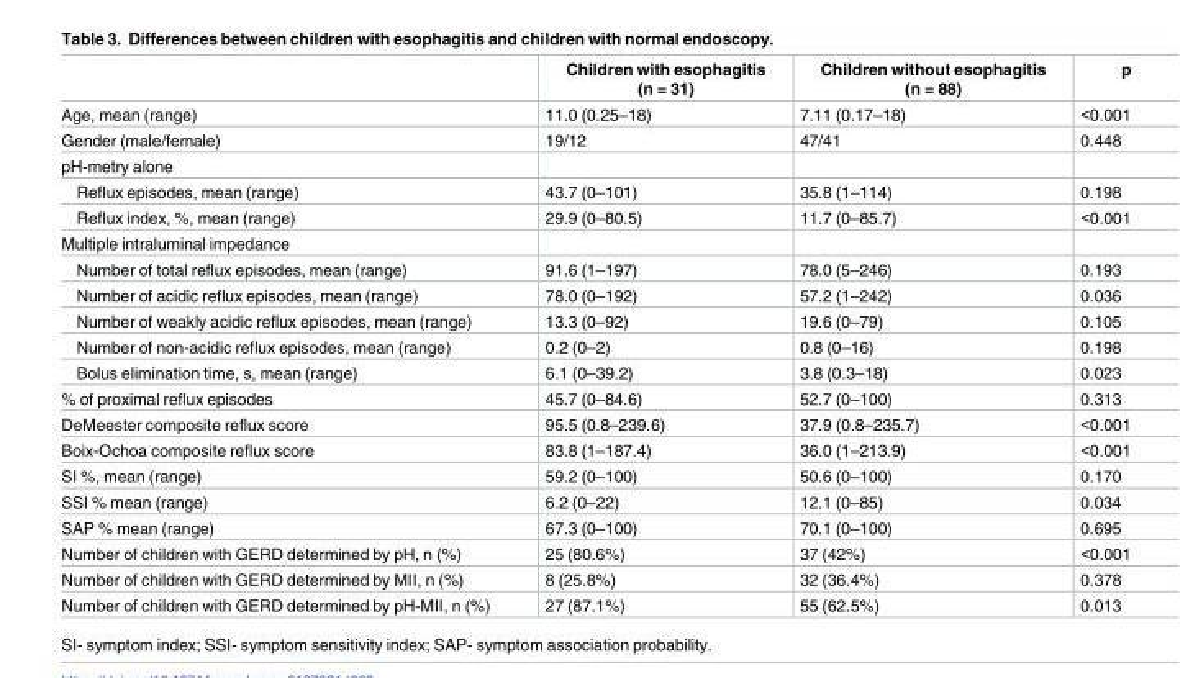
<table><thead><tr><td></td><td>Children with esophagitis (n = 31)</td><td>Children without esophagitis (n = 88)</td><td>p</td></tr></thead><tbody><tr><td>Age, mean (range)</td><td>11.0 (0.25–18)</td><td>7.11 (0.17–18)</td><td>&lt;0.001</td></tr><tr><td>Gender (male/female)</td><td>19/12</td><td>47/41</td><td>0.448</td></tr><tr><td colspan="4">pH-metry alone</td></tr><tr><td>Reflux episodes, mean (range)</td><td>43.7 (0–101)</td><td>35.8 (1–114)</td><td>0.198</td></tr><tr><td>Reflux index, %, mean (range)</td><td>29.9 (0–80.5)</td><td>11.7 (0–85.7)</td><td>&lt;0.001</td></tr><tr><td colspan="4">Multiple intraluminal impedance</td></tr><tr><td>Number of total reflux episodes, mean (range)</td><td>91.6 (1–197)</td><td>78.0 (5–246)</td><td>0.193</td></tr><tr><td>Number of acidic reflux episodes, mean (range)</td><td>78.0 (0–192)</td><td>57.2 (1–242)</td><td>0.036</td></tr><tr><td>Number of weakly acidic reflux episodes, mean (range)</td><td>13.3 (0–92)</td><td>19.6 (0–79)</td><td>0.105</td></tr><tr><td>Number of non-acidic reflux episodes, mean (range)</td><td>0.2 (0–2)</td><td>0.8 (0–16)</td><td>0.198</td></tr><tr><td>Bolus elimination time, s, mean (range)</td><td>6.1 (0–39.2)</td><td>3.8 (0.3–18)</td><td>0.023</td></tr><tr><td>% of proximal reflux episodes</td><td>45.7 (0–84.6)</td><td>52.7 (0–100)</td><td>0.313</td></tr><tr><td>DeMeester composite reflux score</td><td>95.5 (0.8–239.6)</td><td>37.9 (0.8–235.7)</td><td>&lt;0.001</td></tr><tr><td>Boix-Ochoa composite reflux score</td><td>83.8 (1–187.4)</td><td>36.0 (1–213.9)</td><td>&lt;0.001</td></tr><tr><td>SI %, mean (range)</td><td>59.2 (0–100)</td><td>50.6 (0–100)</td><td>0.170</td></tr><tr><td>SSI % mean (range)</td><td>6.2 (0–22)</td><td>12.1 (0–85)</td><td>0.034</td></tr><tr><td>SAP % mean (range)</td><td>67.3 (0–100)</td><td>70.1 (0–100)</td><td>0.695</td></tr><tr><td>Number of children with GERD determined by pH, n (%)</td><td>25 (80.6%)</td><td>37 (42%)</td><td>&lt;0.001</td></tr><tr><td>Number of children with GERD determined by MII, n (%)</td><td>8 (25.8%)</td><td>32 (36.4%)</td><td>0.378</td></tr><tr><td>Number of children with GERD determined by pH-MII, n (%)</td><td>27 (87.1%)</td><td>55 (62.5%)</td><td>0.013</td></tr></tbody></table>